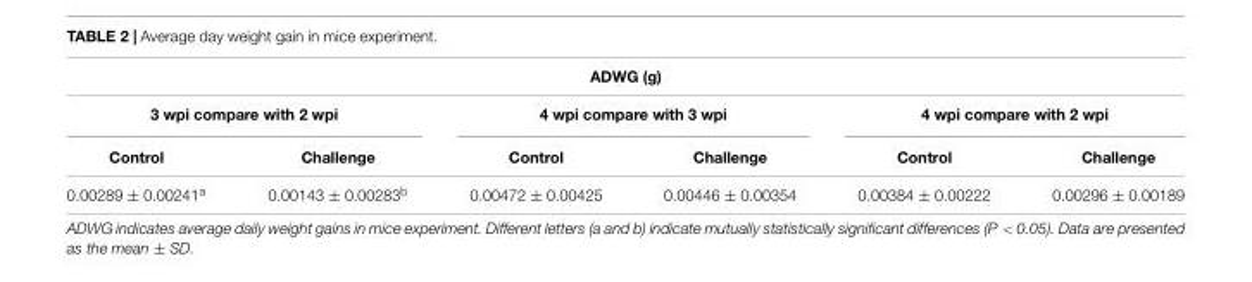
<table><thead><tr><td colspan="6">ADWG (g)</td></tr><tr><td colspan="2">3 wpi compare with 2 wpi</td><td colspan="2">4 wpi compare with 3 wpi</td><td colspan="2">4 wpi compare with 2 wpi</td></tr><tr><td>Control</td><td>Challenge</td><td>Control</td><td>Challenge</td><td>Control</td><td>Challenge</td></tr></thead><tbody><tr><td>0.00289 ± 0.00241<sup>a</sup></td><td>0.00143 ± 0.00283<sup>b</sup></td><td>0.00472 ± 0.00425</td><td>0.00446 ± 0.00354</td><td>0.00384 ± 0.00222</td><td>0.00296 ± 0.00189</td></tr></tbody></table>